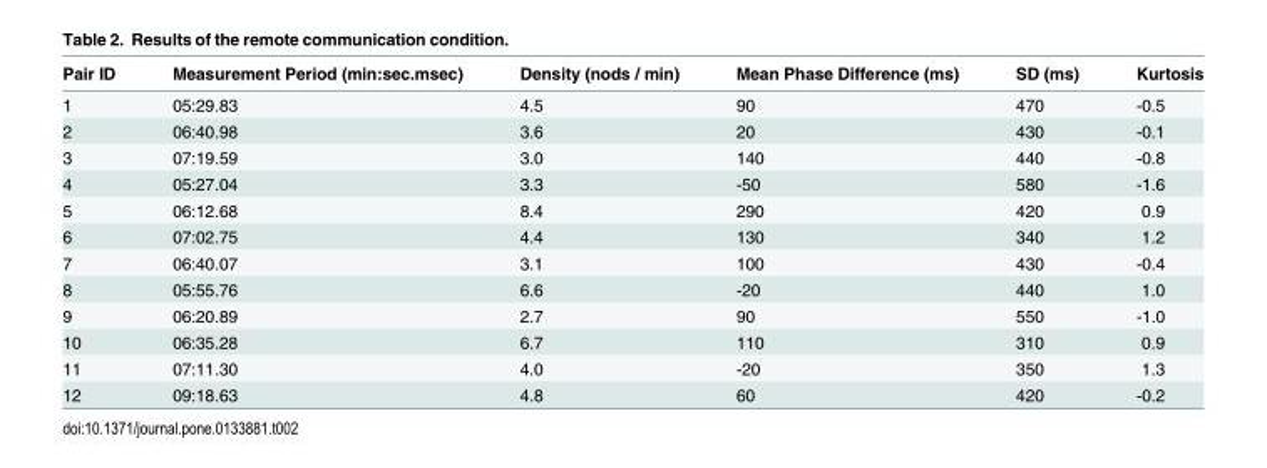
<table><thead><tr><td>Pair ID</td><td>Measurement Period (min:sec.msec)</td><td>Density (nods / min)</td><td>Mean Phase Difference (ms)</td><td>SD (ms)</td><td>Kurtosis</td></tr></thead><tbody><tr><td>1</td><td>05:29.83</td><td>4.5</td><td>90</td><td>470</td><td>-0.5</td></tr><tr><td>2</td><td>06:40.98</td><td>3.6</td><td>20</td><td>430</td><td>-0.1</td></tr><tr><td>3</td><td>07:19.59</td><td>3.0</td><td>140</td><td>440</td><td>-0.8</td></tr><tr><td>4</td><td>05:27.04</td><td>3.3</td><td>-50</td><td>580</td><td>-1.6</td></tr><tr><td>5</td><td>06:12.68</td><td>8.4</td><td>290</td><td>420</td><td>0.9</td></tr><tr><td>6</td><td>07:02.75</td><td>4.4</td><td>130</td><td>340</td><td>1.2</td></tr><tr><td>7</td><td>06:40.07</td><td>3.1</td><td>100</td><td>430</td><td>-0.4</td></tr><tr><td>8</td><td>05:55.76</td><td>6.6</td><td>-20</td><td>440</td><td>1.0</td></tr><tr><td>9</td><td>06:20.89</td><td>2.7</td><td>90</td><td>550</td><td>-1.0</td></tr><tr><td>10</td><td>06:35.28</td><td>6.7</td><td>110</td><td>310</td><td>0.9</td></tr><tr><td>11</td><td>07:11.30</td><td>4.0</td><td>-20</td><td>350</td><td>1.3</td></tr><tr><td>12</td><td>09:18.63</td><td>4.8</td><td>60</td><td>420</td><td>-0.2</td></tr></tbody></table>